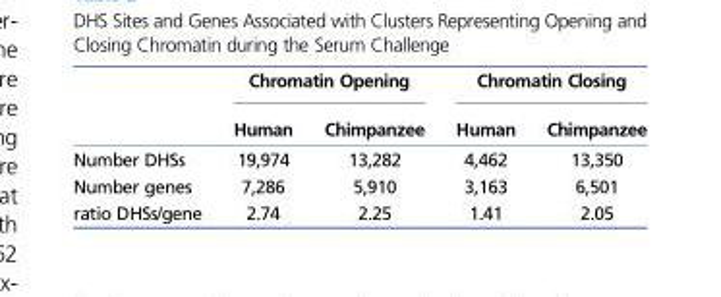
<table><thead><tr><td rowspan="2"></td><td colspan="2">Chromatin Opening</td><td colspan="2">Chromatin Closing</td></tr><tr><td>Human</td><td>Chimpanzee</td><td>Human</td><td>Chimpanzee</td></tr></thead><tbody><tr><td>Number DHSs</td><td>19,974</td><td>13,282</td><td>4,462</td><td>13,350</td></tr><tr><td>Number genes</td><td>7,286</td><td>5,910</td><td>3,163</td><td>6,501</td></tr><tr><td>ratio DHSs/gene</td><td>2.74</td><td>2.25</td><td>1.41</td><td>2.05</td></tr></tbody></table>